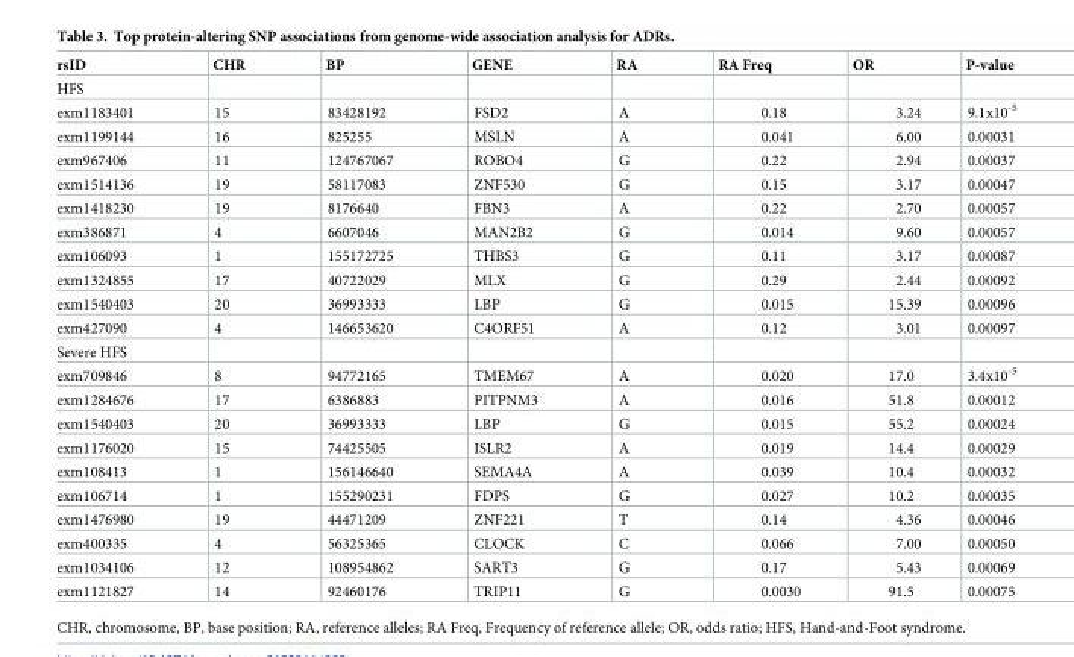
<table><thead><tr><td>rsID</td><td>CHR</td><td>BP</td><td>GENE</td><td>RA</td><td>RA Freq</td><td>OR</td><td>P-value</td></tr></thead><tbody><tr><td colspan="8">HFS</td></tr><tr><td>exm1183401</td><td>15</td><td>83428192</td><td>FSD2</td><td>A</td><td>0.18</td><td>3.24</td><td>9.1x10<sup>-5</sup></td></tr><tr><td>exm1199144</td><td>16</td><td>825255</td><td>MSLN</td><td>A</td><td>0.041</td><td>6.00</td><td>0.00031</td></tr><tr><td>exm967406</td><td>11</td><td>124767067</td><td>ROBO4</td><td>G</td><td>0.22</td><td>2.94</td><td>0.00037</td></tr><tr><td>exm1514136</td><td>19</td><td>58117083</td><td>ZNF530</td><td>G</td><td>0.15</td><td>3.17</td><td>0.00047</td></tr><tr><td>exm1418230</td><td>19</td><td>8176640</td><td>FBN3</td><td>A</td><td>0.22</td><td>2.70</td><td>0.00057</td></tr><tr><td>exm386871</td><td>4</td><td>6607046</td><td>MAN2B2</td><td>G</td><td>0.014</td><td>9.60</td><td>0.00057</td></tr><tr><td>exm106093</td><td>1</td><td>155172725</td><td>THBS3</td><td>G</td><td>0.11</td><td>3.17</td><td>0.00087</td></tr><tr><td>exm1324855</td><td>17</td><td>40722029</td><td>MLX</td><td>G</td><td>0.29</td><td>2.44</td><td>0.00092</td></tr><tr><td>exm1540403</td><td>20</td><td>36993333</td><td>LBP</td><td>G</td><td>0.015</td><td>15.39</td><td>0.00096</td></tr><tr><td>exm427090</td><td>4</td><td>146653620</td><td>C4ORF51</td><td>A</td><td>0.12</td><td>3.01</td><td>0.00097</td></tr><tr><td colspan="8">Severe HFS</td></tr><tr><td>exm709846</td><td>8</td><td>94772165</td><td>TMEM67</td><td>A</td><td>0.020</td><td>17.0</td><td>3.4x10<sup>-5</sup></td></tr><tr><td>exm1284676</td><td>17</td><td>6386883</td><td>PITPNM3</td><td>A</td><td>0.016</td><td>51.8</td><td>0.00012</td></tr><tr><td>exm1540403</td><td>20</td><td>36993333</td><td>LBP</td><td>G</td><td>0.015</td><td>55.2</td><td>0.00024</td></tr><tr><td>exm1176020</td><td>15</td><td>74425505</td><td>ISLR2</td><td>A</td><td>0.019</td><td>14.4</td><td>0.00029</td></tr><tr><td>exm108413</td><td>1</td><td>156146640</td><td>SEMA4A</td><td>A</td><td>0.039</td><td>10.4</td><td>0.00032</td></tr><tr><td>exm106714</td><td>1</td><td>155290231</td><td>FDPS</td><td>G</td><td>0.027</td><td>10.2</td><td>0.00035</td></tr><tr><td>exm1476980</td><td>19</td><td>44471209</td><td>ZNF221</td><td>T</td><td>0.14</td><td>4.36</td><td>0.00046</td></tr><tr><td>exm400335</td><td>4</td><td>56325365</td><td>CLOCK</td><td>C</td><td>0.066</td><td>7.00</td><td>0.00050</td></tr><tr><td>exm1034106</td><td>12</td><td>108954862</td><td>SART3</td><td>G</td><td>0.17</td><td>5.43</td><td>0.00069</td></tr><tr><td>exm1121827</td><td>14</td><td>92460176</td><td>TRIP11</td><td>G</td><td>0.0030</td><td>91.5</td><td>0.00075</td></tr></tbody></table>